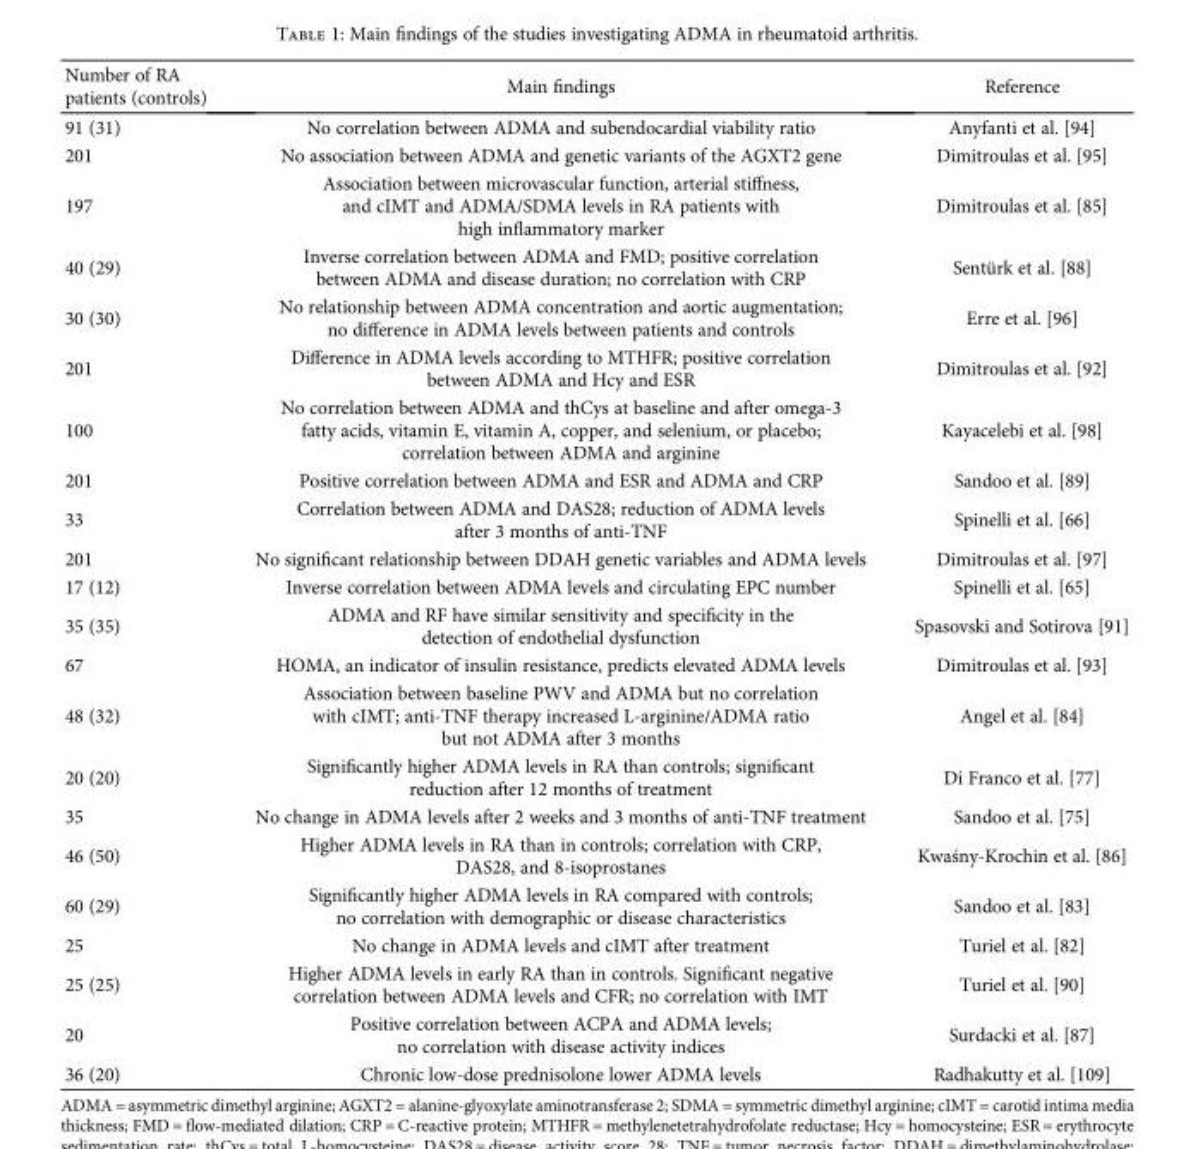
<table><thead><tr><td>Number of RA patients (controls)</td><td>Main findings</td><td>Reference</td></tr></thead><tbody><tr><td>91 (31)</td><td>No correlation between ADMA and subendocardial viability ratio</td><td>Anyfanti et al. [94]</td></tr><tr><td>201</td><td>No association between ADMA and genetic variants of the AGXT2 gene</td><td>Dimitroulas et al. [95]</td></tr><tr><td>197</td><td>Association between microvascular function, arterial stiffness, and cIMT and ADMA/SDMA levels in RA patients with high inflammatory marker</td><td>Dimitroulas et al. [85]</td></tr><tr><td>40 (29)</td><td>Inverse correlation between ADMA and FMD; positive correlation between ADMA and disease duration; no correlation with CRP</td><td>Sentürk et al. [88]</td></tr><tr><td>30 (30)</td><td>No relationship between ADMA concentration and aortic augmentation; no difference in ADMA levels between patients and controls</td><td>Erre et al. [96]</td></tr><tr><td>201</td><td>Difference in ADMA levels according to MTHFR; positive correlation between ADMA and Hcy and ESR</td><td>Dimitroulas et al. [92]</td></tr><tr><td>100</td><td>No correlation between ADMA and thCys at baseline and after omega-3 fatty acids, vitamin E, vitamin A, copper, and selenium, or placebo; correlation between ADMA and arginine</td><td>Kayacelebi et al. [98]</td></tr><tr><td>201</td><td>Positive correlation between ADMA and ESR and ADMA and CRP</td><td>Sandoo et al. [89]</td></tr><tr><td>33</td><td>Correlation between ADMA and DAS28; reduction of ADMA levels after 3 months of anti-TNF</td><td>Spinelli et al. [66]</td></tr><tr><td>201</td><td>No significant relationship between DDAH genetic variables and ADMA levels</td><td>Dimitroulas et al. [97]</td></tr><tr><td>17 (12)</td><td>Inverse correlation between ADMA levels and circulating EPC number</td><td>Spinelli et al. [65]</td></tr><tr><td>35 (35)</td><td>ADMA and RF have similar sensitivity and specificity in the detection of endothelial dysfunction</td><td>Spasovski and Sotirova [91]</td></tr><tr><td>67</td><td>HOMA, an indicator of insulin resistance, predicts elevated ADMA levels</td><td>Dimitroulas et al. [93]</td></tr><tr><td>48 (32)</td><td>Association between baseline PWV and ADMA but no correlation with cIMT; anti-TNF therapy increased L-arginine/ADMA ratio but not ADMA after 3 months</td><td>Angel et al. [84]</td></tr><tr><td>20 (20)</td><td>Significantly higher ADMA levels in RA than controls; significant reduction after 12 months of treatment</td><td>Di Franco et al. [77]</td></tr><tr><td>35</td><td>No change in ADMA levels after 2 weeks and 3 months of anti-TNF treatment</td><td>Sandoo et al. [75]</td></tr><tr><td>46 (50)</td><td>Higher ADMA levels in RA than in controls; correlation with CRP, DAS28, and 8-isoprostanes</td><td>Kwaśny-Krochin et al. [86]</td></tr><tr><td>60 (29)</td><td>Significantly higher ADMA levels in RA compared with controls; no correlation with demographic or disease characteristics</td><td>Sandoo et al. [83]</td></tr><tr><td>25</td><td>No change in ADMA levels and cIMT after treatment</td><td>Turiel et al. [82]</td></tr><tr><td>25 (25)</td><td>Higher ADMA levels in early RA than in controls. Significant negative correlation between ADMA levels and CFR; no correlation with IMT</td><td>Turiel et al. [90]</td></tr><tr><td>20</td><td>Positive correlation between ACPA and ADMA levels; no correlation with disease activity indices</td><td>Surdacki et al. [87]</td></tr><tr><td>36 (20)</td><td>Chronic low-dose prednisolone lower ADMA levels</td><td>Radhakutty et al. [109]</td></tr></tbody></table>